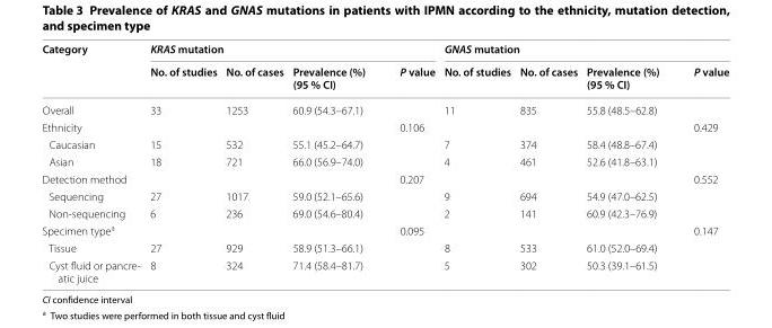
<table><thead><tr><td rowspan="2">Category</td><td colspan="4">KRAS mutation</td><td colspan="4">GNAS mutation</td></tr><tr><td>No. of studies</td><td>No. of cases</td><td>Prevalence (%) (95 % CI)</td><td>P value</td><td>No. of studies</td><td>No. of cases</td><td>Prevalence (%) (95 % CI)</td><td>P value</td></tr></thead><tbody><tr><td>Overall</td><td>33</td><td>1253</td><td>60.9 (54.3–67.1)</td><td></td><td>11</td><td>835</td><td>55.8 (48.5–62.8)</td><td></td></tr><tr><td>Ethnicity</td><td></td><td></td><td></td><td>0.106</td><td></td><td></td><td></td><td>0.429</td></tr><tr><td>Caucasian</td><td>15</td><td>532</td><td>55.1 (45.2–64.7)</td><td></td><td>7</td><td>374</td><td>58.4 (48.8–67.4)</td><td></td></tr><tr><td>Asian</td><td>18</td><td>721</td><td>66.0 (56.9–74.0)</td><td></td><td>4</td><td>461</td><td>52.6 (41.8–63.1)</td><td></td></tr><tr><td>Detection method</td><td></td><td></td><td></td><td>0.207</td><td></td><td></td><td></td><td>0.552</td></tr><tr><td>Sequencing</td><td>27</td><td>1017</td><td>59.0 (52.1–65.6)</td><td></td><td>9</td><td>694</td><td>54.9 (47.0–62.5)</td><td></td></tr><tr><td>Non‑sequencing</td><td>6</td><td>236</td><td>69.0 (54.6–80.4)</td><td></td><td>2</td><td>141</td><td>60.9 (42.3–76.9)</td><td></td></tr><tr><td>Specimen type<sup>a</sup></td><td></td><td></td><td></td><td>0.095</td><td></td><td></td><td></td><td>0.147</td></tr><tr><td>Tissue</td><td>27</td><td>929</td><td>58.9 (51.3–66.1)</td><td></td><td>8</td><td>533</td><td>61.0 (52.0–69.4)</td><td></td></tr><tr><td>Cyst fluid or pancre‑ atic juice</td><td>8</td><td>324</td><td>71.4 (58.4–81.7)</td><td></td><td>5</td><td>302</td><td>50.3 (39.1–61.5)</td><td></td></tr></tbody></table>